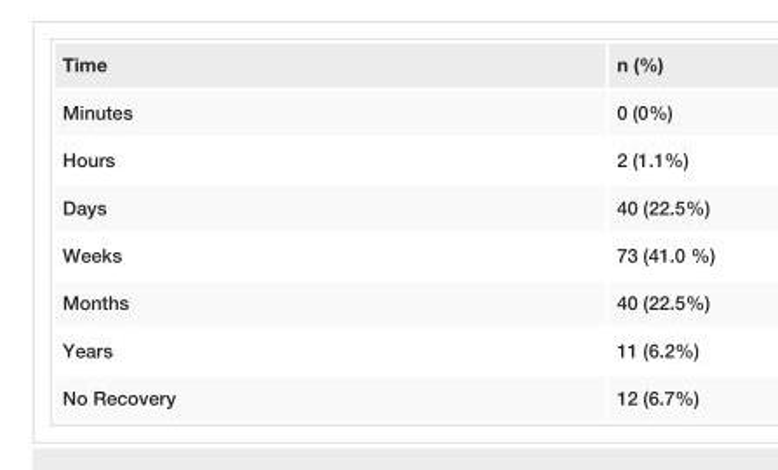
<table><tbody><tr><td>Time</td><td>n (%)</td></tr><tr><td>Minutes</td><td>0 (0%)</td></tr><tr><td>Hours</td><td>2 (1.1%)</td></tr><tr><td>Days</td><td>40 (22.5%)</td></tr><tr><td>Weeks</td><td>73 (41.0 %)</td></tr><tr><td>Months</td><td>40 (22.5%)</td></tr><tr><td>Years</td><td>11 (6.2%)</td></tr><tr><td>No Recovery</td><td>12 (6.7%)</td></tr></tbody></table>